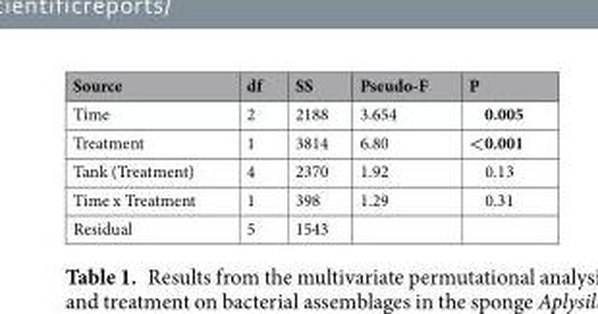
<table><thead><tr><td>Source</td><td>df</td><td>SS</td><td>Pseudo-F</td><td>P</td></tr></thead><tbody><tr><td>Time</td><td>2</td><td>2188</td><td>3.654</td><td>0.005</td></tr><tr><td>Treatment</td><td>1</td><td>3814</td><td>6.80</td><td>&lt;0.001</td></tr><tr><td>Tank (Treatment)</td><td>4</td><td>2370</td><td>1.92</td><td>0.13</td></tr><tr><td>Time x Treatment</td><td>1</td><td>398</td><td>1.29</td><td>0.31</td></tr><tr><td>Residual</td><td>5</td><td>1543</td><td></td><td></td></tr></tbody></table>